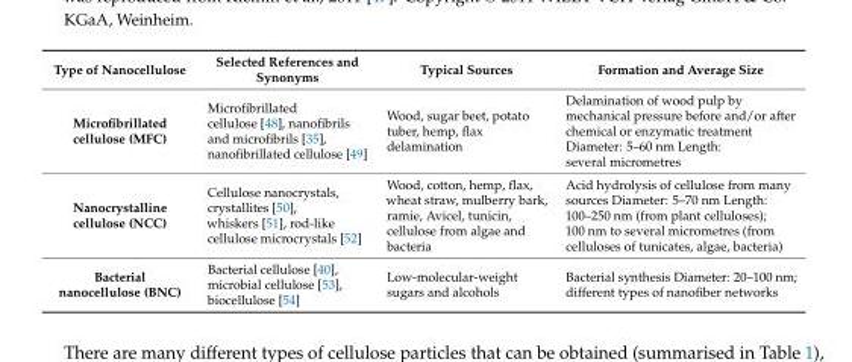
<table><thead><tr><td>Type of Nanocellulose</td><td>Selected References and Synonyms</td><td>Typical Sources</td><td>Formation and Average Size</td></tr></thead><tbody><tr><td>Microfibrillated cellulose (MFC)</td><td>Microfibrillated cellulose [48], nanofibrils and microfibrils [35], nanofibrillated cellulose [49]</td><td>Wood, sugar beet, potato tuber, hemp, flax delamination</td><td>Delamination of wood pulp by mechanical pressure before and/or after chemical or enzymatic treatment Diameter: 5–60 nm Length: several micrometres</td></tr><tr><td>Nanocrystalline cellulose (NCC)</td><td>Cellulose nanocrystals, crystallites [50], whiskers [51], rod-like cellulose microcrystals [52]</td><td>Wood, cotton, hemp, flax, wheat straw, mulberry bark, ramie, Avicel, tunicin, cellulose from algae and bacteria</td><td>Acid hydrolysis of cellulose from many sources Diameter: 5–70 nm Length: 100–250 nm (from plant celluloses); 100 nm to several micrometres (from celluloses of tunicates, algae, bacteria)</td></tr><tr><td>Bacterial nanocellulose (BNC)</td><td>Bacterial cellulose [40], microbial cellulose [53], biocellulose [54]</td><td>Low-molecular-weight sugars and alcohols</td><td>Bacterial synthesis Diameter: 20–100 nm; different types of nanofiber networks</td></tr></tbody></table>